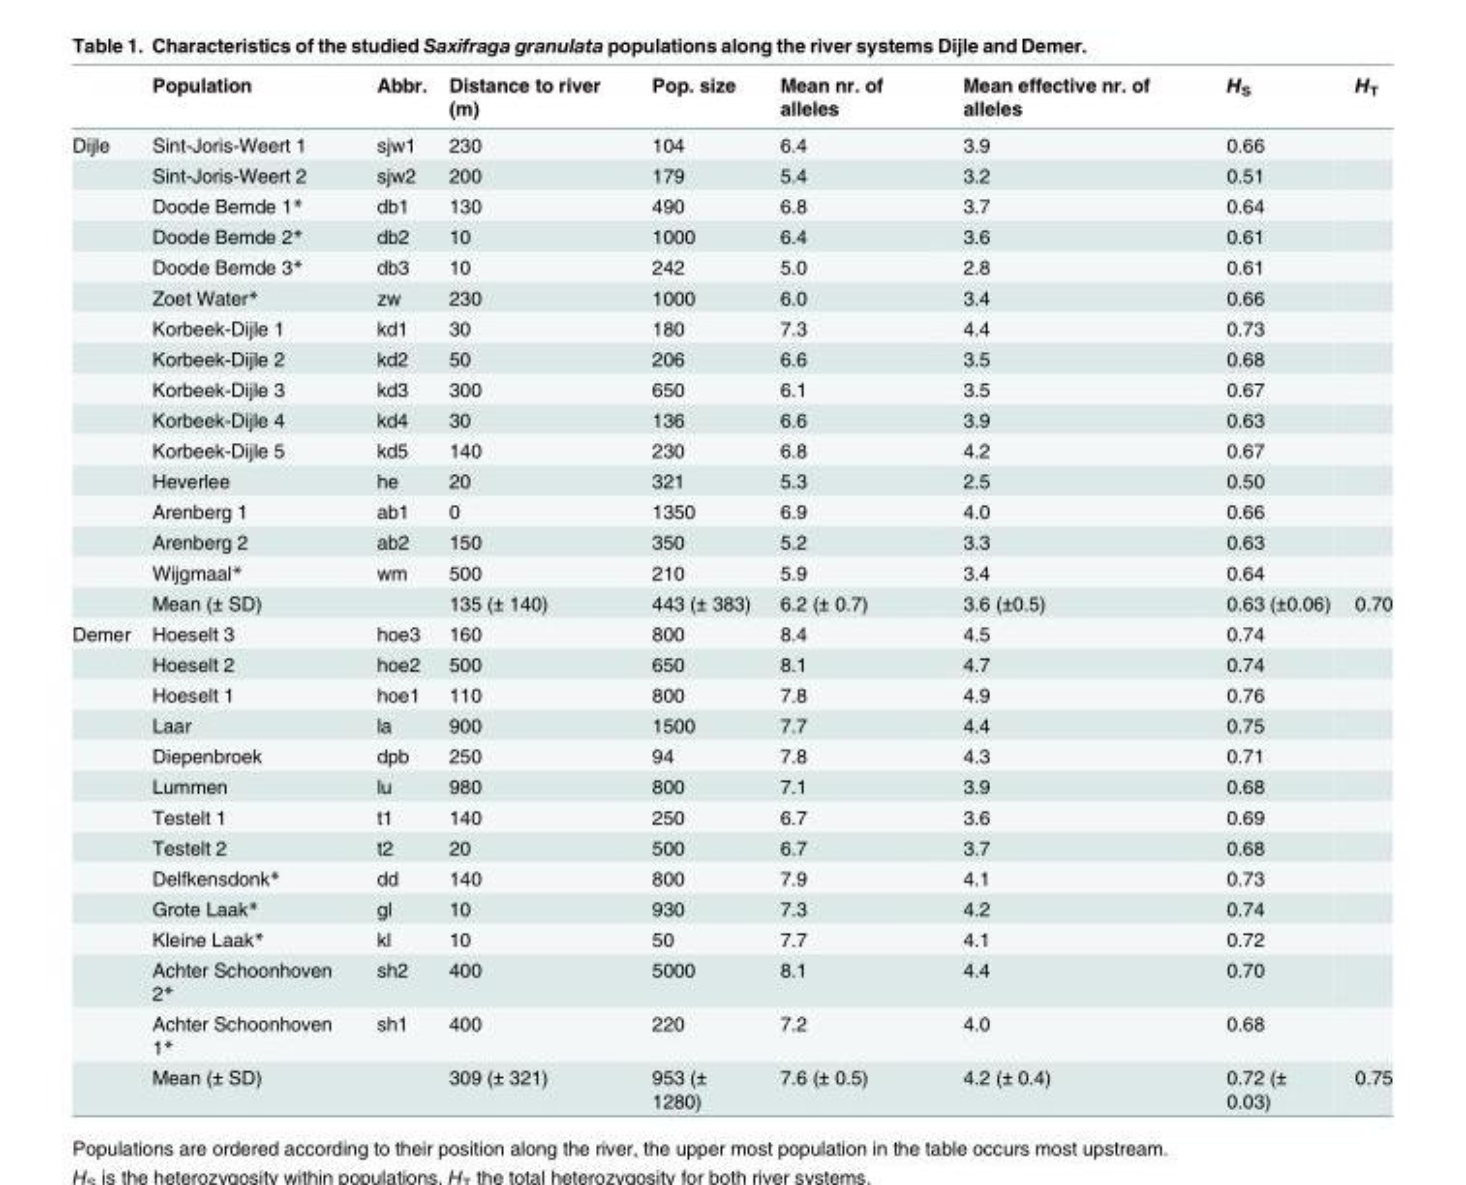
<table><thead><tr><td></td><td>Population</td><td>Abbr.</td><td>Distance to river (m)</td><td>Pop. size</td><td>Mean nr. of alleles</td><td>Mean effective nr. of alleles</td><td>H<sub>S</sub></td><td>H<sub>T</sub></td></tr></thead><tbody><tr><td rowspan="16">Dijle</td><td>Sint-Joris-Weert 1</td><td>sjw1</td><td>230</td><td>104</td><td>6.4</td><td>3.9</td><td>0.66</td><td></td></tr><tr><td>Sint-Joris-Weert 2</td><td>sjw2</td><td>200</td><td>179</td><td>5.4</td><td>3.2</td><td>0.51</td><td></td></tr><tr><td>Doode Bemde 1*</td><td>db1</td><td>130</td><td>490</td><td>6.8</td><td>3.7</td><td>0.64</td><td></td></tr><tr><td>Doode Bemde 2*</td><td>db2</td><td>10</td><td>1000</td><td>6.4</td><td>3.6</td><td>0.61</td><td></td></tr><tr><td>Doode Bemde 3*</td><td>db3</td><td>10</td><td>242</td><td>5.0</td><td>2.8</td><td>0.61</td><td></td></tr><tr><td>Zoet Water*</td><td>zw</td><td>230</td><td>1000</td><td>6.0</td><td>3.4</td><td>0.66</td><td></td></tr><tr><td>Korbeek-Dijle 1</td><td>kd1</td><td>30</td><td>180</td><td>7.3</td><td>4.4</td><td>0.73</td><td></td></tr><tr><td>Korbeek-Dijle 2</td><td>kd2</td><td>50</td><td>206</td><td>6.6</td><td>3.5</td><td>0.68</td><td></td></tr><tr><td>Korbeek-Dijle 3</td><td>kd3</td><td>300</td><td>650</td><td>6.1</td><td>3.5</td><td>0.67</td><td></td></tr><tr><td>Korbeek-Dijle 4</td><td>kd4</td><td>30</td><td>136</td><td>6.6</td><td>3.9</td><td>0.63</td><td></td></tr><tr><td>Korbeek-Dijle 5</td><td>kd5</td><td>140</td><td>230</td><td>6.8</td><td>4.2</td><td>0.67</td><td></td></tr><tr><td>Heverlee</td><td>he</td><td>20</td><td>321</td><td>5.3</td><td>2.5</td><td>0.50</td><td></td></tr><tr><td>Arenberg 1</td><td>ab1</td><td>0</td><td>1350</td><td>6.9</td><td>4.0</td><td>0.66</td><td></td></tr><tr><td>Arenberg 2</td><td>ab2</td><td>150</td><td>350</td><td>5.2</td><td>3.3</td><td>0.63</td><td></td></tr><tr><td>Wijgmaal*</td><td>wm</td><td>500</td><td>210</td><td>5.9</td><td>3.4</td><td>0.64</td><td></td></tr><tr><td>Mean (± SD)</td><td></td><td>135 (± 140)</td><td>443 (± 383)</td><td>6.2 (± 0.7)</td><td>3.6 (±0.5)</td><td>0.63 (±0.06)</td><td>0.70</td></tr><tr><td rowspan="14">Demer</td><td>Hoeselt 3</td><td>hoe3</td><td>160</td><td>800</td><td>8.4</td><td>4.5</td><td>0.74</td><td></td></tr><tr><td>Hoeselt 2</td><td>hoe2</td><td>500</td><td>650</td><td>8.1</td><td>4.7</td><td>0.74</td><td></td></tr><tr><td>Hoeselt 1</td><td>hoe1</td><td>110</td><td>800</td><td>7.8</td><td>4.9</td><td>0.76</td><td></td></tr><tr><td>Laar</td><td>la</td><td>900</td><td>1500</td><td>7.7</td><td>4.4</td><td>0.75</td><td></td></tr><tr><td>Diepenbroek</td><td>dpb</td><td>250</td><td>94</td><td>7.8</td><td>4.3</td><td>0.71</td><td></td></tr><tr><td>Lummen</td><td>lu</td><td>980</td><td>800</td><td>7.1</td><td>3.9</td><td>0.68</td><td></td></tr><tr><td>Testelt 1</td><td>t1</td><td>140</td><td>250</td><td>6.7</td><td>3.6</td><td>0.69</td><td></td></tr><tr><td>Testelt 2</td><td>t2</td><td>20</td><td>500</td><td>6.7</td><td>3.7</td><td>0.68</td><td></td></tr><tr><td>Delfkensdonk*</td><td>dd</td><td>140</td><td>800</td><td>7.9</td><td>4.1</td><td>0.73</td><td></td></tr><tr><td>Grote Laak*</td><td>gl</td><td>10</td><td>930</td><td>7.3</td><td>4.2</td><td>0.74</td><td></td></tr><tr><td>Kleine Laak*</td><td>kl</td><td>10</td><td>50</td><td>7.7</td><td>4.1</td><td>0.72</td><td></td></tr><tr><td>Achter Schoonhoven 2*</td><td>sh2</td><td>400</td><td>5000</td><td>8.1</td><td>4.4</td><td>0.70</td><td></td></tr><tr><td>Achter Schoonhoven 1*</td><td>sh1</td><td>400</td><td>220</td><td>7.2</td><td>4.0</td><td>0.68</td><td></td></tr><tr><td>Mean (± SD)</td><td></td><td>309 (± 321)</td><td>953 (± 1280)</td><td>7.6 (± 0.5)</td><td>4.2 (± 0.4)</td><td>0.72 (± 0.03)</td><td>0.75</td></tr></tbody></table>